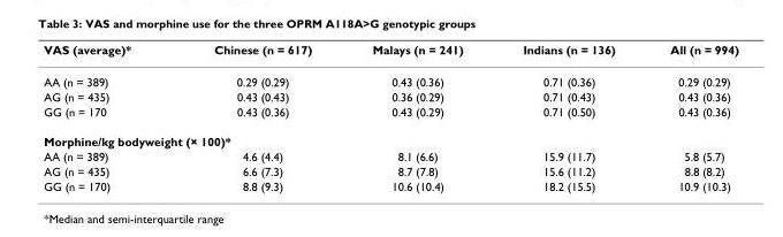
<table><thead><tr><td>VAS (average)*</td><td>Chinese (n = 617)</td><td>Malays (n = 241)</td><td>Indians (n = 136)</td><td>All (n = 994)</td></tr></thead><tbody><tr><td>AA (n = 389)</td><td>0.29 (0.29)</td><td>0.43 (0.36)</td><td>0.71 (0.36)</td><td>0.29 (0.29)</td></tr><tr><td>AG (n = 435)</td><td>0.43 (0.43)</td><td>0.36 (0.29)</td><td>0.71 (0.43)</td><td>0.43 (0.36)</td></tr><tr><td>GG (n = 170</td><td>0.43 (0.36)</td><td>0.43 (0.29)</td><td>0.71 (0.50)</td><td>0.43 (0.36)</td></tr><tr><td colspan="5">Morphine/kg bodyweight (× 100)*</td></tr><tr><td>AA (n = 389)</td><td>4.6 (4.4)</td><td>8.1 (6.6)</td><td>15.9 (11.7)</td><td>5.8 (5.7)</td></tr><tr><td>AG (n = 435)</td><td>6.6 (7.3)</td><td>8.7 (7.8)</td><td>15.6 (11.2)</td><td>8.8 (8.2)</td></tr><tr><td>GG (n = 170)</td><td>8.8 (9.3)</td><td>10.6 (10.4)</td><td>18.2 (15.5)</td><td>10.9 (10.3)</td></tr></tbody></table>